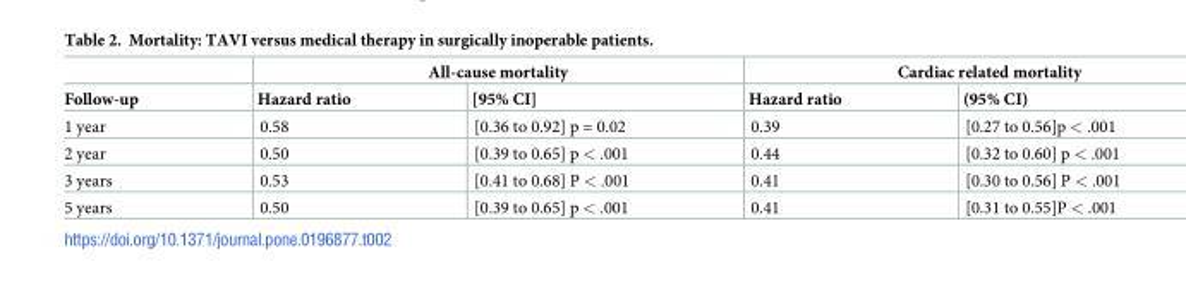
<table><thead><tr><td rowspan="2">Follow-up</td><td colspan="2">All-cause mortality</td><td colspan="2">Cardiac related mortality</td></tr><tr><td>Hazard ratio</td><td>[95% CI]</td><td>Hazard ratio</td><td>(95% CI)</td></tr></thead><tbody><tr><td>1 year</td><td>0.58</td><td>[0.36 to 0.92] p = 0.02</td><td>0.39</td><td>[0.27 to 0.56]p &lt; .001</td></tr><tr><td>2 year</td><td>0.50</td><td>[0.39 to 0.65] p &lt; .001</td><td>0.44</td><td>[0.32 to 0.60] p &lt; .001</td></tr><tr><td>3 years</td><td>0.53</td><td>[0.41 to 0.68] P &lt; .001</td><td>0.41</td><td>[0.30 to 0.56] P &lt; .001</td></tr><tr><td>5 years</td><td>0.50</td><td>[0.39 to 0.65] p &lt; .001</td><td>0.41</td><td>[0.31 to 0.55]P &lt; .001</td></tr></tbody></table>